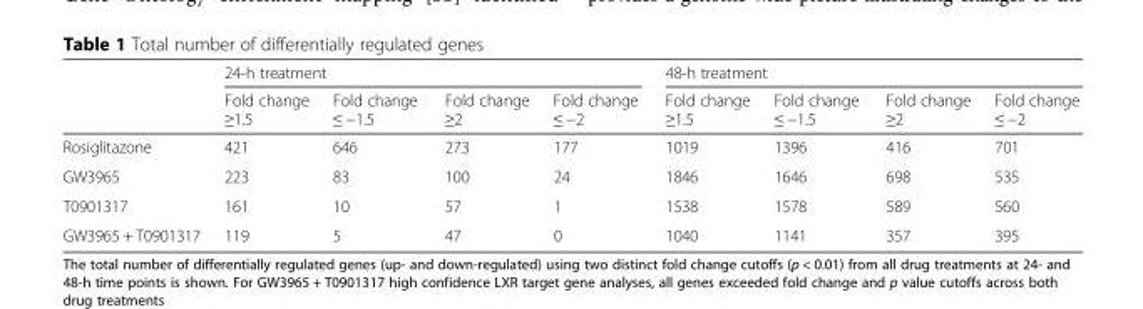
<table><thead><tr><td rowspan="2"></td><td colspan="4">24-h treatment</td><td colspan="4">48-h treatment</td></tr><tr><td>Fold change ≥1.5</td><td>Fold change ≤ −1.5</td><td>Fold change ≥2</td><td>Fold change ≤ −2</td><td>Fold change ≥1.5</td><td>Fold change ≤ −1.5</td><td>Fold change ≥2</td><td>Fold change ≤ −2</td></tr></thead><tbody><tr><td>Rosiglitazone</td><td>421</td><td>646</td><td>273</td><td>177</td><td>1019</td><td>1396</td><td>416</td><td>701</td></tr><tr><td>GW3965</td><td>223</td><td>83</td><td>100</td><td>24</td><td>1846</td><td>1646</td><td>698</td><td>535</td></tr><tr><td>T0901317</td><td>161</td><td>10</td><td>57</td><td>1</td><td>1538</td><td>1578</td><td>589</td><td>560</td></tr><tr><td>GW3965 + T0901317</td><td>119</td><td>5</td><td>47</td><td>0</td><td>1040</td><td>1141</td><td>357</td><td>395</td></tr></tbody></table>